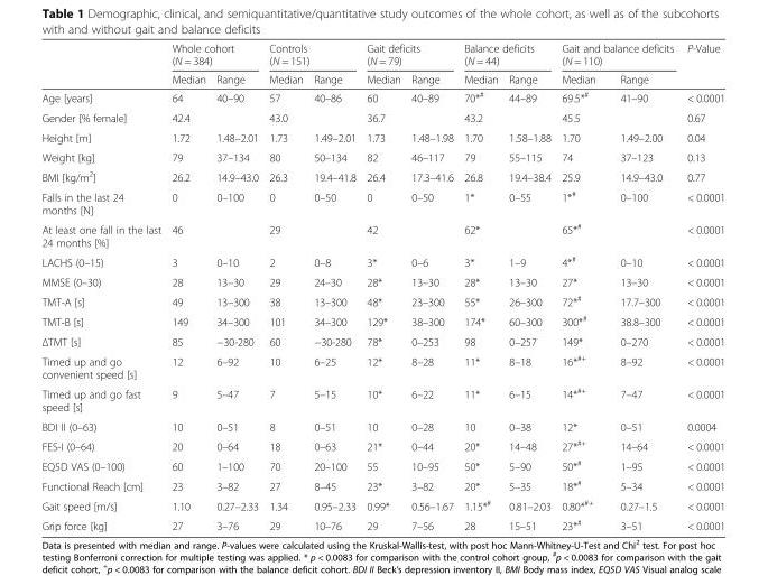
<table><thead><tr><td rowspan="2"></td><td colspan="2">Whole cohort (N = 384)</td><td colspan="2">Controls (N = 151)</td><td colspan="2">Gait deficits (N = 79)</td><td colspan="2">Balance deficits (N = 44)</td><td colspan="2">Gait and balance deficits (N = 110)</td><td rowspan="2">P-Value</td></tr><tr><td>Median</td><td>Range</td><td>Median</td><td>Range</td><td>Median</td><td>Range</td><td>Median</td><td>Range</td><td>Median</td><td>Range</td></tr></thead><tbody><tr><td>Age [years]</td><td>64</td><td>40–90</td><td>57</td><td>40–86</td><td>60</td><td>40–89</td><td>70*<sup>#</sup></td><td>44–89</td><td>69.5*<sup>#</sup></td><td>41–90</td><td>&lt; 0.0001</td></tr><tr><td>Gender [% female]</td><td>42.4</td><td></td><td>43.0</td><td></td><td>36.7</td><td></td><td>43.2</td><td></td><td>45.5</td><td></td><td>0.67</td></tr><tr><td>Height [m]</td><td>1.72</td><td>1.48–2.01</td><td>1.73</td><td>1.49–2.01</td><td>1.73</td><td>1.48–1.98</td><td>1.70</td><td>1.58–1.88</td><td>1.70</td><td>1.49–2.00</td><td>0.04</td></tr><tr><td>Weight [kg]</td><td>79</td><td>37–134</td><td>80</td><td>50–134</td><td>82</td><td>46–117</td><td>79</td><td>55–115</td><td>74</td><td>37–123</td><td>0.13</td></tr><tr><td>BMI [kg/m<sup>2</sup>]</td><td>26.2</td><td>14.9–43.0</td><td>26.3</td><td>19.4–41.8</td><td>26.4</td><td>17.3–41.6</td><td>26.8</td><td>19.4–38.4</td><td>25.9</td><td>14.9–43.0</td><td>0.77</td></tr><tr><td>Falls in the last 24 months [N]</td><td>0</td><td>0–100</td><td>0</td><td>0–50</td><td>0</td><td>0–50</td><td>1*</td><td>0–55</td><td>1*<sup>#</sup></td><td>0–100</td><td>&lt; 0.0001</td></tr><tr><td>At least one fall in the last 24 months [%]</td><td>46</td><td></td><td>29</td><td></td><td>42</td><td></td><td>62*</td><td></td><td>65*<sup>#</sup></td><td></td><td>&lt; 0.0001</td></tr><tr><td>LACHS (0–15)</td><td>3</td><td>0–10</td><td>2</td><td>0–8</td><td>3*</td><td>0–6</td><td>3*</td><td>1–9</td><td>4*<sup>#</sup></td><td>0–10</td><td>&lt; 0.0001</td></tr><tr><td>MMSE (0–30)</td><td>28</td><td>13–30</td><td>29</td><td>24–30</td><td>28*</td><td>13–30</td><td>28*</td><td>13–30</td><td>27*</td><td>13–30</td><td>&lt; 0.0001</td></tr><tr><td>TMT-A [s]</td><td>49</td><td>13–300</td><td>38</td><td>13–300</td><td>48*</td><td>23–300</td><td>55*</td><td>26–300</td><td>72*<sup>#</sup></td><td>17.7–300</td><td>&lt; 0.0001</td></tr><tr><td>TMT-B [s]</td><td>149</td><td>34–300</td><td>101</td><td>34–300</td><td>129*</td><td>38–300</td><td>174*</td><td>60–300</td><td>300*<sup>#</sup></td><td>38.8–300</td><td>&lt; 0.0001</td></tr><tr><td>ΔTMT [s]</td><td>85</td><td>−30-280</td><td>60</td><td>−30-280</td><td>78*</td><td>0–253</td><td>98</td><td>0–257</td><td>149*</td><td>0–270</td><td>&lt; 0.0001</td></tr><tr><td>Timed up and go convenient speed [s]</td><td>12</td><td>6–92</td><td>10</td><td>6–25</td><td>12*</td><td>8–28</td><td>11*</td><td>8–18</td><td>16*<sup>#+</sup></td><td>8–92</td><td>&lt; 0.0001</td></tr><tr><td>Timed up and go fast speed [s]</td><td>9</td><td>5–47</td><td>7</td><td>5–15</td><td>10*</td><td>6–22</td><td>11*</td><td>6–15</td><td>14*<sup>#+</sup></td><td>7–47</td><td>&lt; 0.0001</td></tr><tr><td>BDI II (0–63)</td><td>10</td><td>0–51</td><td>8</td><td>0–51</td><td>10</td><td>0–28</td><td>10</td><td>0–38</td><td>12*</td><td>0–51</td><td>0.0004</td></tr><tr><td>FES-I (0–64)</td><td>20</td><td>0–64</td><td>18</td><td>0–63</td><td>21*</td><td>0–44</td><td>20*</td><td>14–48</td><td>27*<sup>#+</sup></td><td>14–64</td><td>&lt; 0.0001</td></tr><tr><td>EQ5D VAS (0–100)</td><td>60</td><td>1–100</td><td>70</td><td>20–100</td><td>55</td><td>10–95</td><td>50*</td><td>5–90</td><td>50*<sup>#</sup></td><td>1–95</td><td>&lt; 0.0001</td></tr><tr><td>Functional Reach [cm]</td><td>23</td><td>3–82</td><td>27</td><td>8–45</td><td>23*</td><td>3–82</td><td>20*</td><td>5–35</td><td>18*<sup>#</sup></td><td>5–34</td><td>&lt; 0.0001</td></tr><tr><td>Gait speed [m/s]</td><td>1.10</td><td>0.27–2.33</td><td>1.34</td><td>0.95–2.33</td><td>0.99*</td><td>0.56–1.67</td><td>1.15*<sup>#</sup></td><td>0.81–2.03</td><td>0.80*<sup>#+</sup></td><td>0.27–1.5</td><td>&lt; 0.0001</td></tr><tr><td>Grip force [kg]</td><td>27</td><td>3–76</td><td>29</td><td>10–76</td><td>29</td><td>7–56</td><td>28</td><td>15–51</td><td>23*<sup>#</sup></td><td>3–51</td><td>&lt; 0.0001</td></tr></tbody></table>